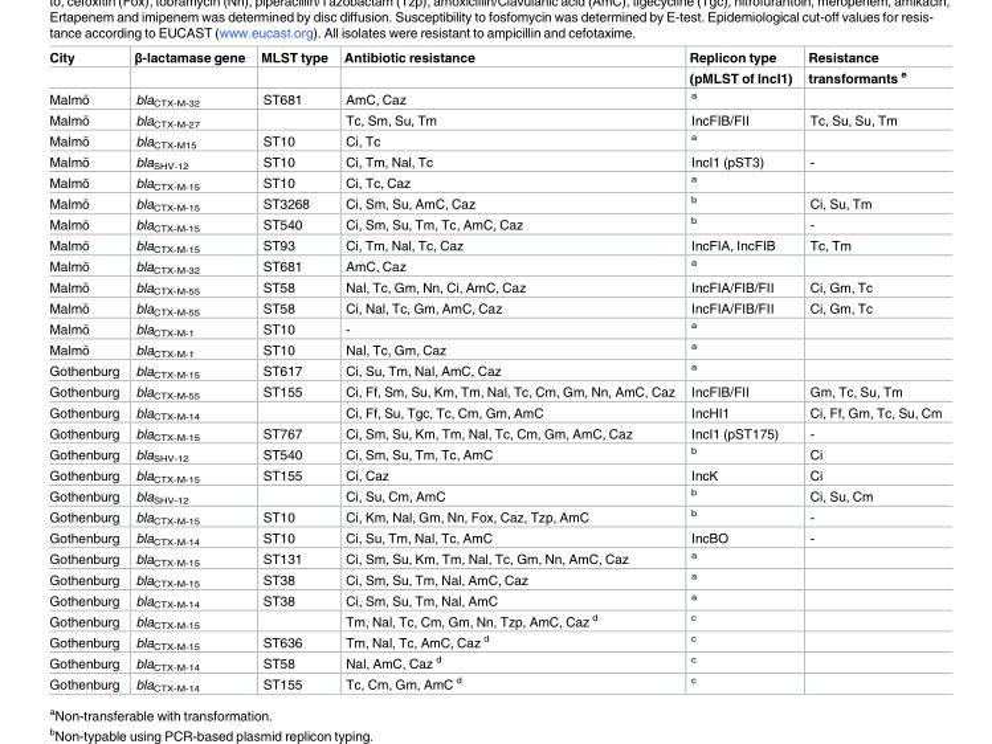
<table><thead><tr><td rowspan="2">City</td><td rowspan="2">β-lactamase gene</td><td rowspan="2">MLST type</td><td rowspan="2">Antibiotic resistance</td><td rowspan="2">Replicon type (pMLST of IncI1)</td><td rowspan="2">Resistance transformants <sup>e</sup></td></tr><tr></tr></thead><tbody><tr><td>Malmo¨</td><td>bla<sub>CTX-M-32</sub></td><td>ST681</td><td>AmC, Caz</td><td><sup>a</sup></td><td></td></tr><tr><td>Malmo¨</td><td>bla<sub>CTX-M-27</sub></td><td></td><td>Tc, Sm, Su, Tm</td><td>IncFIB/FII</td><td>Tc, Su, Su, Tm</td></tr><tr><td>Malmo¨</td><td>bla<sub>CTX-M15</sub></td><td>ST10</td><td>Ci, Tc</td><td><sup>a</sup></td><td></td></tr><tr><td>Malmo¨</td><td>bla<sub>SHV-12</sub></td><td>ST10</td><td>Ci, Tm, Nal, Tc</td><td>IncI1 (pST3)</td><td>-</td></tr><tr><td>Malmo¨</td><td>bla<sub>CTX-M-15</sub></td><td>ST10</td><td>Ci, Tc, Caz</td><td><sup>a</sup></td><td></td></tr><tr><td>Malmo¨</td><td>bla<sub>CTX-M-15</sub></td><td>ST3268</td><td>Ci, Sm, Su, AmC, Caz</td><td><sup>b</sup></td><td>Ci, Su, Tm</td></tr><tr><td>Malmo¨</td><td>bla<sub>CTX-M-15</sub></td><td>ST540</td><td>Ci, Sm, Su, Tm, Tc, AmC, Caz</td><td><sup>b</sup></td><td>-</td></tr><tr><td>Malmo¨</td><td>bla<sub>CTX-M-15</sub></td><td>ST93</td><td>Ci, Tm, Nal, Tc, Caz</td><td>IncFIA, IncFIB</td><td>Tc, Tm</td></tr><tr><td>Malmo¨</td><td>bla<sub>CTX-M-32</sub></td><td>ST681</td><td>AmC, Caz</td><td><sup>a</sup></td><td></td></tr><tr><td>Malmo¨</td><td>bla<sub>CTX-M-55</sub></td><td>ST58</td><td>Nal, Tc, Gm, Nn, Ci, AmC, Caz</td><td>IncFIA/FIB/FII</td><td>Ci, Gm, Tc</td></tr><tr><td>Malmo¨</td><td>bla<sub>CTX-M-55</sub></td><td>ST58</td><td>Ci, Nal, Tc, Gm, AmC, Caz</td><td>IncFIA/FIB/FII</td><td>Ci, Gm, Tc</td></tr><tr><td>Malmo¨</td><td>bla<sub>CTX-M-1</sub></td><td>ST10</td><td>-</td><td><sup>a</sup></td><td></td></tr><tr><td>Malmo¨</td><td>bla<sub>CTX-M-1</sub></td><td>ST10</td><td>Nal, Tc, Gm, Caz</td><td><sup>a</sup></td><td></td></tr><tr><td>Gothenburg</td><td>bla<sub>CTX-M-15</sub></td><td>ST617</td><td>Ci, Su, Tm, Nal, AmC, Caz</td><td><sup>a</sup></td><td></td></tr><tr><td>Gothenburg</td><td>bla<sub>CTX-M-55</sub></td><td>ST155</td><td>Ci, Ff, Sm, Su, Km, Tm, Nal, Tc, Cm, Gm, Nn, AmC, Caz</td><td>IncFIB/FII</td><td>Gm, Tc, Su, Tm</td></tr><tr><td>Gothenburg</td><td>bla<sub>CTX-M-14</sub></td><td></td><td>Ci, Ff, Su, Tgc, Tc, Cm, Gm, AmC</td><td>IncHI1</td><td>Ci, Ff, Gm, Tc, Su, Cm</td></tr><tr><td>Gothenburg</td><td>bla<sub>CTX-M-15</sub></td><td>ST767</td><td>Ci, Sm, Su, Km, Tm, Nal, Tc, Cm, Gm, AmC, Caz</td><td>IncI1 (pST175)</td><td>-</td></tr><tr><td>Gothenburg</td><td>bla<sub>SHV-12</sub></td><td>ST540</td><td>Ci, Sm, Su, Tm, Tc, AmC</td><td><sup>b</sup></td><td>Ci</td></tr><tr><td>Gothenburg</td><td>bla<sub>CTX-M-15</sub></td><td>ST155</td><td>Ci, Caz</td><td>IncK</td><td>Ci</td></tr><tr><td>Gothenburg</td><td>bla<sub>SHV-12</sub></td><td></td><td>Ci, Su, Cm, AmC</td><td><sup>b</sup></td><td>Ci, Su, Cm</td></tr><tr><td>Gothenburg</td><td>bla<sub>CTX-M-15</sub></td><td>ST10</td><td>Ci, Km, Nal, Gm, Nn, Fox, Caz, Tzp, AmC</td><td><sup>b</sup></td><td>-</td></tr><tr><td>Gothenburg</td><td>bla<sub>CTX-M-14</sub></td><td>ST10</td><td>Ci, Su, Tm, Nal, Tc, AmC</td><td>IncBO</td><td>-</td></tr><tr><td>Gothenburg</td><td>bla<sub>CTX-M-15</sub></td><td>ST131</td><td>Ci, Sm, Su, Km, Tm, Nal, Tc, Gm, Nn, AmC, Caz</td><td><sup>a</sup></td><td></td></tr><tr><td>Gothenburg</td><td>bla<sub>CTX-M-15</sub></td><td>ST38</td><td>Ci, Sm, Su, Tm, Nal, AmC, Caz</td><td><sup>a</sup></td><td></td></tr><tr><td>Gothenburg</td><td>bla<sub>CTX-M-14</sub></td><td>ST38</td><td>Ci, Sm, Su, Tm, Nal, AmC</td><td><sup>a</sup></td><td></td></tr><tr><td>Gothenburg</td><td>bla<sub>CTX-M-15</sub></td><td></td><td>Tm, Nal, Tc, Cm, Gm, Nn, Tzp, AmC, Caz <sup>d</sup></td><td><sup>c</sup></td><td></td></tr><tr><td>Gothenburg</td><td>bla<sub>CTX-M-15</sub></td><td>ST636</td><td>Tm, Nal, Tc, AmC, Caz <sup>d</sup></td><td><sup>c</sup></td><td></td></tr><tr><td>Gothenburg</td><td>bla<sub>CTX-M-14</sub></td><td>ST58</td><td>Nal, AmC, Caz <sup>d</sup></td><td><sup>c</sup></td><td></td></tr><tr><td>Gothenburg</td><td>bla<sub>CTX-M-14</sub></td><td>ST155</td><td>Tc, Cm, Gm, AmC <sup>d</sup></td><td><sup>c</sup></td><td></td></tr></tbody></table>